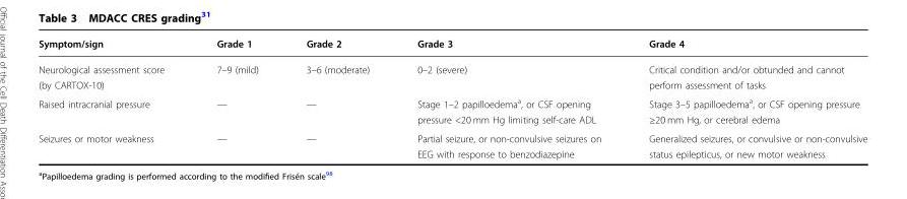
<table><thead><tr><td>Symptom/sign</td><td>Grade 1</td><td>Grade 2</td><td>Grade 3</td><td>Grade 4</td></tr></thead><tbody><tr><td>Neurological assessment score (by CARTOX-10)</td><td>7–9 (mild)</td><td>3–6 (moderate)</td><td>0–2 (severe)</td><td>Critical condition and/or obtunded and cannot perform assessment of tasks</td></tr><tr><td>Raised intracranial pressure</td><td>—</td><td>—</td><td>Stage 1–2 papilloedema<sup>a</sup>, or CSF opening pressure &lt;20 mm Hg limiting self-care ADL</td><td>Stage 3–5 papilloedema<sup>a</sup>, or CSF opening pressure ≥20 mm Hg, or cerebral edema</td></tr><tr><td>Seizures or motor weakness</td><td>—</td><td>—</td><td>Partial seizure, or non-convulsive seizures on EEG with response to benzodiazepine</td><td>Generalized seizures, or convulsive or non-convulsive status epilepticus, or new motor weakness</td></tr></tbody></table>